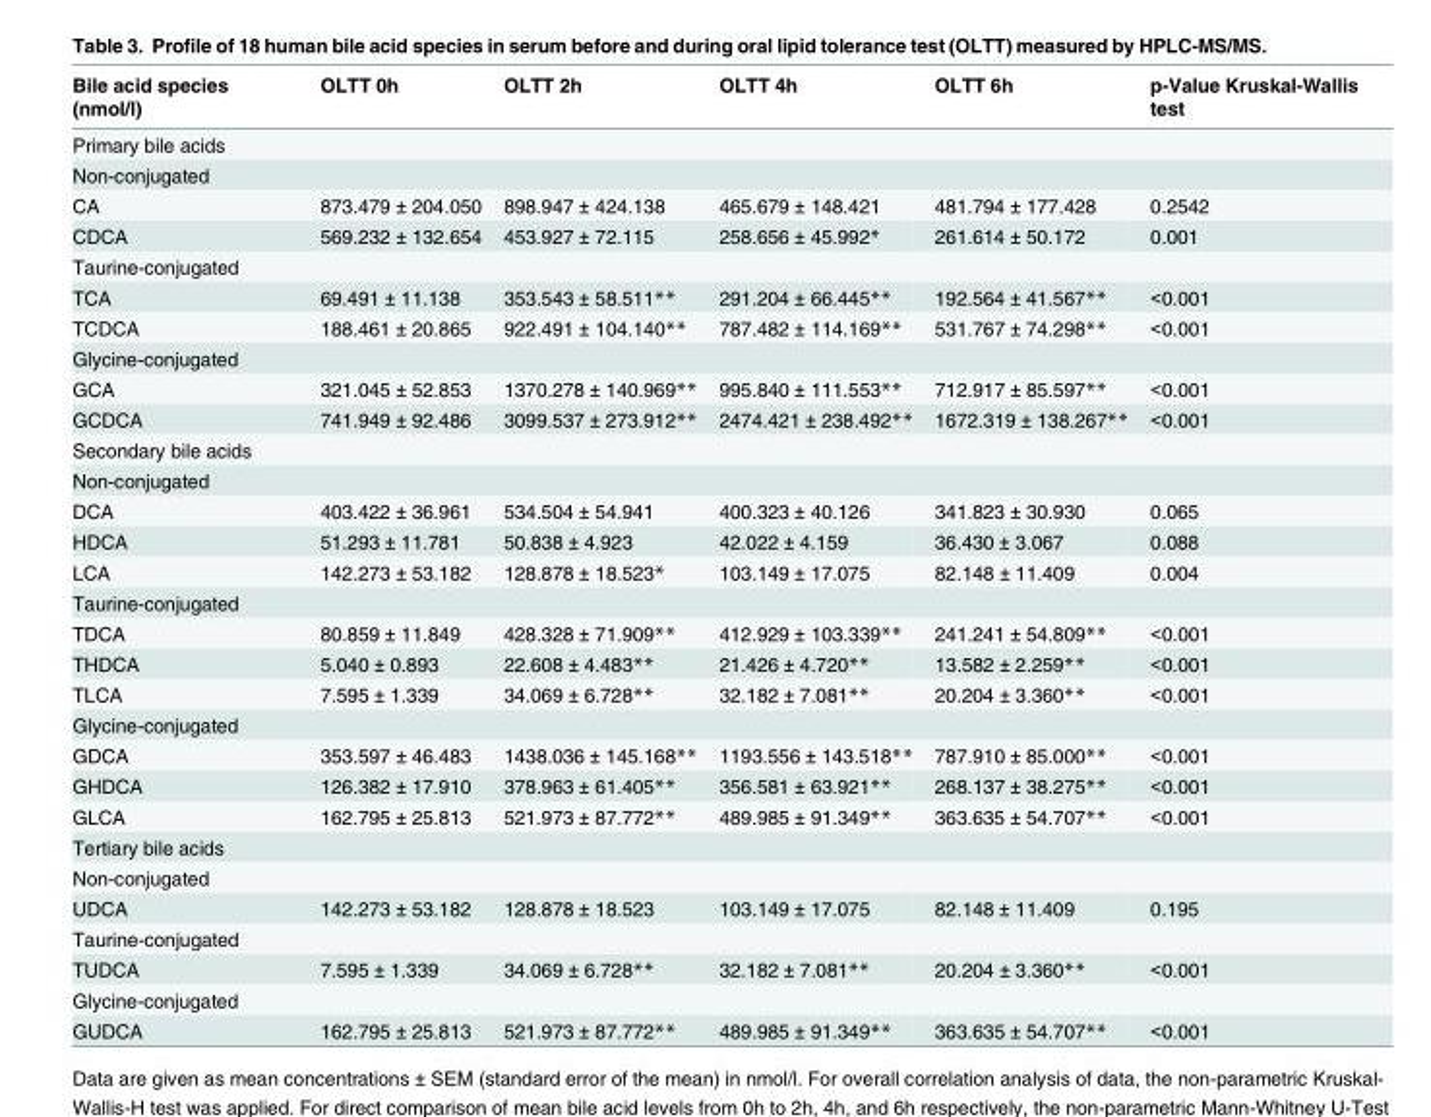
<table><thead><tr><td>Bile acid species (nmol/l)</td><td>OLTT 0h</td><td>OLTT 2h</td><td>OLTT 4h</td><td>OLTT 6h</td><td>p-Value Kruskal-Wallis test</td></tr></thead><tbody><tr><td colspan="6">Primary bile acids</td></tr><tr><td colspan="6">Non-conjugated</td></tr><tr><td>CA</td><td>873.479 ± 204.050</td><td>898.947 ± 424.138</td><td>465.679 ± 148.421</td><td>481.794 ± 177.428</td><td>0.2542</td></tr><tr><td>CDCA</td><td>569.232 ± 132.654</td><td>453.927 ± 72.115</td><td>258.656 ± 45.992*</td><td>261.614 ± 50.172</td><td>0.001</td></tr><tr><td colspan="6">Taurine-conjugated</td></tr><tr><td>TCA</td><td>69.491 ± 11.138</td><td>353.543 ± 58.511**</td><td>291.204 ± 66.445**</td><td>192.564 ± 41.567**</td><td>&lt;0.001</td></tr><tr><td>TCDCA</td><td>188.461 ± 20.865</td><td>922.491 ± 104.140**</td><td>787.482 ± 114.169**</td><td>531.767 ± 74.298**</td><td>&lt;0.001</td></tr><tr><td colspan="6">Glycine-conjugated</td></tr><tr><td>GCA</td><td>321.045 ± 52.853</td><td>1370.278 ± 140.969**</td><td>995.840 ± 111.553**</td><td>712.917 ± 85.597**</td><td>&lt;0.001</td></tr><tr><td>GCDCA</td><td>741.949 ± 92.486</td><td>3099.537 ± 273.912**</td><td>2474.421 ± 238.492**</td><td>1672.319 ± 138.267**</td><td>&lt;0.001</td></tr><tr><td colspan="6">Secondary bile acids</td></tr><tr><td colspan="6">Non-conjugated</td></tr><tr><td>DCA</td><td>403.422 ± 36.961</td><td>534.504 ± 54.941</td><td>400.323 ± 40.126</td><td>341.823 ± 30.930</td><td>0.065</td></tr><tr><td>HDCA</td><td>51.293 ± 11.781</td><td>50.838 ± 4.923</td><td>42.022 ± 4.159</td><td>36.430 ± 3.067</td><td>0.088</td></tr><tr><td>LCA</td><td>142.273 ± 53.182</td><td>128.878 ± 18.523*</td><td>103.149 ± 17.075</td><td>82.148 ± 11.409</td><td>0.004</td></tr><tr><td colspan="6">Taurine-conjugated</td></tr><tr><td>TDCA</td><td>80.859 ± 11.849</td><td>428.328 ± 71.909**</td><td>412.929 ± 103.339**</td><td>241.241 ± 54.809**</td><td>&lt;0.001</td></tr><tr><td>THDCA</td><td>5.040 ± 0.893</td><td>22.608 ± 4.483**</td><td>21.426 ± 4.720**</td><td>13.582 ± 2.259**</td><td>&lt;0.001</td></tr><tr><td>TLCA</td><td>7.595 ± 1.339</td><td>34.069 ± 6.728**</td><td>32.182 ± 7.081**</td><td>20.204 ± 3.360**</td><td>&lt;0.001</td></tr><tr><td colspan="6">Glycine-conjugated</td></tr><tr><td>GDCA</td><td>353.597 ± 46.483</td><td>1438.036 ± 145.168**</td><td>1193.556 ± 143.518**</td><td>787.910 ± 85.000**</td><td>&lt;0.001</td></tr><tr><td>GHDCA</td><td>126.382 ± 17.910</td><td>378.963 ± 61.405**</td><td>356.581 ± 63.921**</td><td>268.137 ± 38.275**</td><td>&lt;0.001</td></tr><tr><td>GLCA</td><td>162.795 ± 25.813</td><td>521.973 ± 87.772**</td><td>489.985 ± 91.349**</td><td>363.635 ± 54.707**</td><td>&lt;0.001</td></tr><tr><td colspan="6">Tertiary bile acids</td></tr><tr><td colspan="6">Non-conjugated</td></tr><tr><td>UDCA</td><td>142.273 ± 53.182</td><td>128.878 ± 18.523</td><td>103.149 ± 17.075</td><td>82.148 ± 11.409</td><td>0.195</td></tr><tr><td colspan="6">Taurine-conjugated</td></tr><tr><td>TUDCA</td><td>7.595 ± 1.339</td><td>34.069 ± 6.728**</td><td>32.182 ± 7.081**</td><td>20.204 ± 3.360**</td><td>&lt;0.001</td></tr><tr><td colspan="6">Glycine-conjugated</td></tr><tr><td>GUDCA</td><td>162.795 ± 25.813</td><td>521.973 ± 87.772**</td><td>489.985 ± 91.349**</td><td>363.635 ± 54.707**</td><td>&lt;0.001</td></tr></tbody></table>